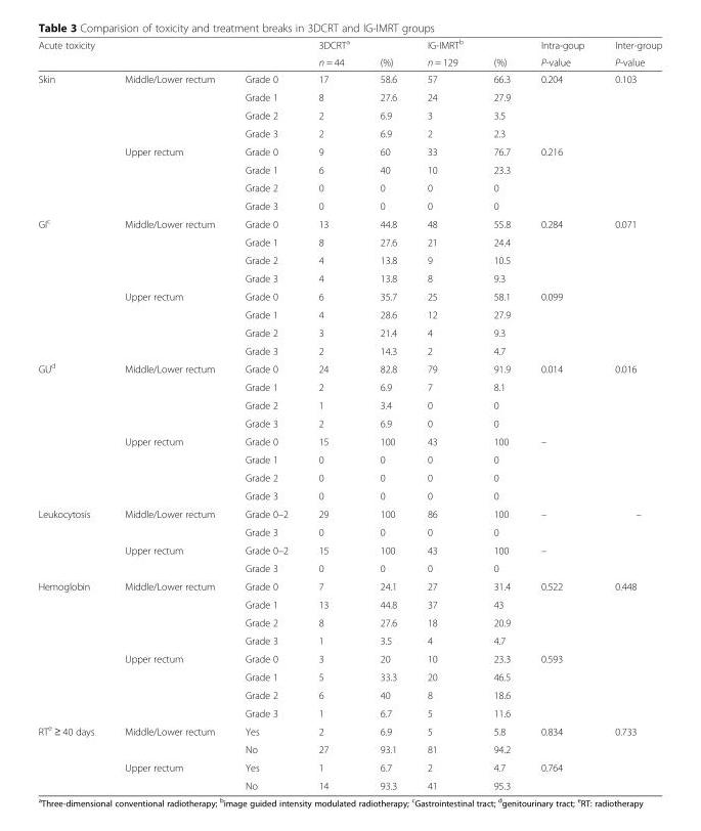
<table><thead><tr><td rowspan="2" colspan="3">Acute toxicity</td><td rowspan="3">3DCRT<sup>a</sup> n = 44 17</td><td rowspan="3">(%) 58.6</td><td rowspan="3">IG-IMRT<sup>b</sup> n = 129 57</td><td rowspan="3">(%) 66.3</td><td rowspan="3">Intra-goup P-value 0.204</td><td rowspan="3">Inter-group P-value 0.103</td></tr><tr></tr><tr><td>Skin</td><td>Middle/Lower rectum</td><td>Grade 0</td></tr></thead><tbody><tr><td rowspan="7"></td><td rowspan="3"></td><td>Grade 1</td><td>8</td><td>27.6</td><td>24</td><td>27.9</td><td rowspan="3"></td><td rowspan="7"></td></tr><tr><td>Grade 2</td><td>2</td><td>6.9</td><td>3</td><td>3.5</td></tr><tr><td>Grade 3</td><td>2</td><td>6.9</td><td>2</td><td>2.3</td></tr><tr><td>Upper rectum</td><td>Grade 0</td><td>9</td><td>60</td><td>33</td><td>76.7</td><td>0.216</td></tr><tr><td rowspan="3"></td><td>Grade 1</td><td>6</td><td>40</td><td>10</td><td>23.3</td><td rowspan="3"></td></tr><tr><td>Grade 2</td><td>0</td><td>0</td><td>0</td><td>0</td></tr><tr><td>Grade 3</td><td>0</td><td>0</td><td>0</td><td>0</td></tr><tr><td rowspan="8">GI<sup>c</sup></td><td>Middle/Lower rectum</td><td>Grade 0</td><td>13</td><td>44.8</td><td>48</td><td>55.8</td><td>0.284</td><td>0.071</td></tr><tr><td rowspan="3"></td><td>Grade 1</td><td>8</td><td>27.6</td><td>21</td><td>24.4</td><td rowspan="3"></td><td rowspan="7"></td></tr><tr><td>Grade 2</td><td>4</td><td>13.8</td><td>9</td><td>10.5</td></tr><tr><td>Grade 3</td><td>4</td><td>13.8</td><td>8</td><td>9.3</td></tr><tr><td>Upper rectum</td><td>Grade 0</td><td>6</td><td>35.7</td><td>25</td><td>58.1</td><td>0.099</td></tr><tr><td rowspan="3"></td><td>Grade 1</td><td>4</td><td>28.6</td><td>12</td><td>27.9</td><td rowspan="3"></td></tr><tr><td>Grade 2</td><td>3</td><td>21.4</td><td>4</td><td>9.3</td></tr><tr><td>Grade 3</td><td>2</td><td>14.3</td><td>2</td><td>4.7</td></tr><tr><td rowspan="8">GU<sup>d</sup></td><td>Middle/Lower rectum</td><td>Grade 0</td><td>24</td><td>82.8</td><td>79</td><td>91.9</td><td>0.014</td><td>0.016</td></tr><tr><td rowspan="3"></td><td>Grade 1</td><td>2</td><td>6.9</td><td>7</td><td>8.1</td><td rowspan="3"></td><td rowspan="7"></td></tr><tr><td>Grade 2</td><td>1</td><td>3.4</td><td>0</td><td>0</td></tr><tr><td>Grade 3</td><td>2</td><td>6.9</td><td>0</td><td>0</td></tr><tr><td>Upper rectum</td><td>Grade 0</td><td>15</td><td>100</td><td>43</td><td>100</td><td>–</td></tr><tr><td rowspan="3"></td><td>Grade 1</td><td>0</td><td>0</td><td>0</td><td>0</td><td rowspan="3"></td></tr><tr><td>Grade 2</td><td>0</td><td>0</td><td>0</td><td>0</td></tr><tr><td>Grade 3</td><td>0</td><td>0</td><td>0</td><td>0</td></tr><tr><td rowspan="4">Leukocytosis</td><td>Middle/Lower rectum</td><td>Grade 0–2</td><td>29</td><td>100</td><td>86</td><td>100</td><td>–</td><td>–</td></tr><tr><td></td><td>Grade 3</td><td>0</td><td>0</td><td>0</td><td>0</td><td></td><td rowspan="3"></td></tr><tr><td>Upper rectum</td><td>Grade 0–2</td><td>15</td><td>100</td><td>43</td><td>100</td><td>–</td></tr><tr><td></td><td>Grade 3</td><td>0</td><td>0</td><td>0</td><td>0</td><td></td></tr><tr><td rowspan="8">Hemoglobin</td><td>Middle/Lower rectum</td><td>Grade 0</td><td>7</td><td>24.1</td><td>27</td><td>31.4</td><td>0.522</td><td>0.448</td></tr><tr><td rowspan="3"></td><td>Grade 1</td><td>13</td><td>44.8</td><td>37</td><td>43</td><td rowspan="3"></td><td rowspan="7"></td></tr><tr><td>Grade 2</td><td>8</td><td>27.6</td><td>18</td><td>20.9</td></tr><tr><td>Grade 3</td><td>1</td><td>3.5</td><td>4</td><td>4.7</td></tr><tr><td>Upper rectum</td><td>Grade 0</td><td>3</td><td>20</td><td>10</td><td>23.3</td><td>0.593</td></tr><tr><td rowspan="3"></td><td>Grade 1</td><td>5</td><td>33.3</td><td>20</td><td>46.5</td><td rowspan="3"></td></tr><tr><td>Grade 2</td><td>6</td><td>40</td><td>8</td><td>18.6</td></tr><tr><td>Grade 3</td><td>1</td><td>6.7</td><td>5</td><td>11.6</td></tr><tr><td rowspan="4">RT<sup>e</sup> ≥ 40 days</td><td>Middle/Lower rectum</td><td>Yes</td><td>2</td><td>6.9</td><td>5</td><td>5.8</td><td>0.834</td><td>0.733</td></tr><tr><td></td><td>No</td><td>27</td><td>93.1</td><td>81</td><td>94.2</td><td></td><td rowspan="3"></td></tr><tr><td>Upper rectum</td><td>Yes</td><td>1</td><td>6.7</td><td>2</td><td>4.7</td><td>0.764</td></tr><tr><td></td><td>No</td><td>14</td><td>93.3</td><td>41</td><td>95.3</td><td></td></tr></tbody></table>